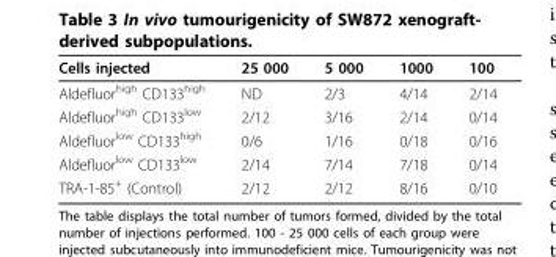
<table><thead><tr><td>Cells injected</td><td>25 000</td><td>5 000</td><td>1000</td><td>100</td></tr></thead><tbody><tr><td>Aldefluor<sup>high</sup> CD133<sup>high</sup></td><td>ND</td><td>2/3</td><td>4/14</td><td>2/14</td></tr><tr><td>Aldefluor<sup>high</sup> CD133<sup>low</sup></td><td>2/12</td><td>3/16</td><td>2/14</td><td>0/14</td></tr><tr><td>Aldefluor<sup>low</sup> CD133<sup>high</sup></td><td>0/6</td><td>1/16</td><td>0/18</td><td>0/16</td></tr><tr><td>Aldefluor<sup>low</sup> CD133<sup>low</sup></td><td>2/14</td><td>7/14</td><td>7/18</td><td>0/14</td></tr><tr><td>TRA-1-85<sup>+</sup> (Control)</td><td>2/12</td><td>2/12</td><td>8/16</td><td>0/10</td></tr></tbody></table>